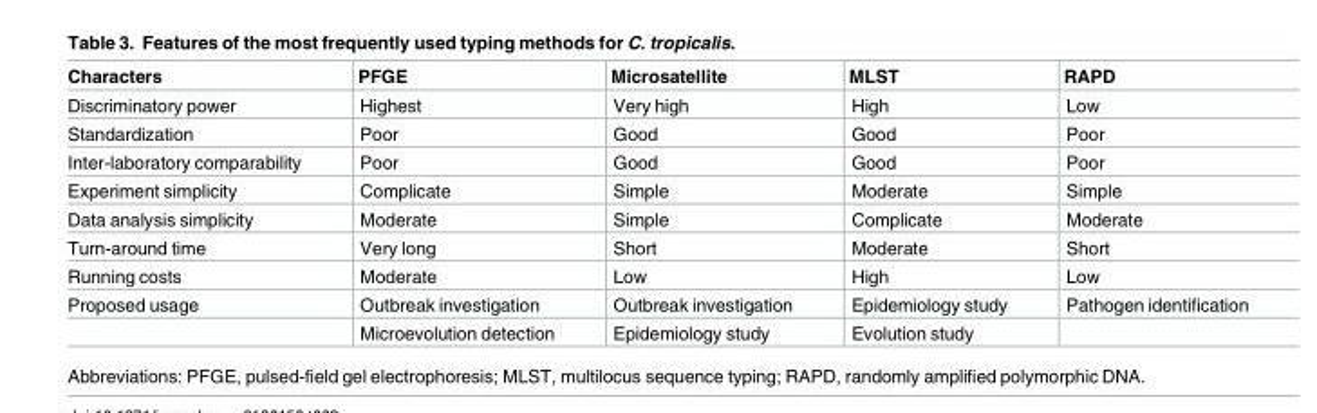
<table><thead><tr><td>Characters</td><td>PFGE</td><td>Microsatellite</td><td>MLST</td><td>RAPD</td></tr></thead><tbody><tr><td>Discriminatory power</td><td>Highest</td><td>Very high</td><td>High</td><td>Low</td></tr><tr><td>Standardization</td><td>Poor</td><td>Good</td><td>Good</td><td>Poor</td></tr><tr><td>Inter-laboratory comparability</td><td>Poor</td><td>Good</td><td>Good</td><td>Poor</td></tr><tr><td>Experiment simplicity</td><td>Complicate</td><td>Simple</td><td>Moderate</td><td>Simple</td></tr><tr><td>Data analysis simplicity</td><td>Moderate</td><td>Simple</td><td>Complicate</td><td>Moderate</td></tr><tr><td>Turn-around time</td><td>Very long</td><td>Short</td><td>Moderate</td><td>Short</td></tr><tr><td>Running costs</td><td>Moderate</td><td>Low</td><td>High</td><td>Low</td></tr><tr><td rowspan="2">Proposed usage</td><td>Outbreak investigation</td><td>Outbreak investigation</td><td>Epidemiology study</td><td>Pathogen identification</td></tr><tr><td>Microevolution detection</td><td>Epidemiology study</td><td>Evolution study</td><td></td></tr></tbody></table>